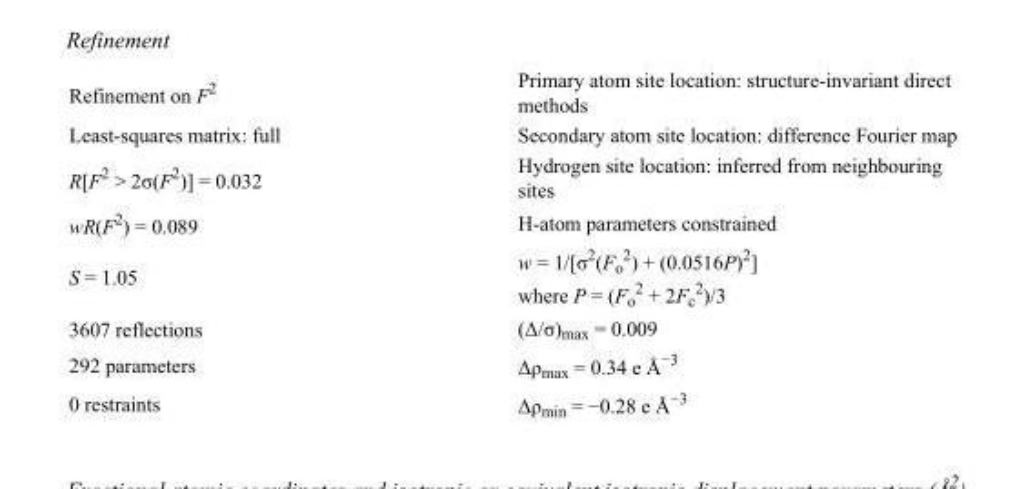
<table><tbody><tr><td>Refinement on F<sup>2</sup></td><td>Primary atom site location: structure-invariant direct methods</td></tr><tr><td>Least-squares matrix: full</td><td>Secondary atom site location: difference Fourier map</td></tr><tr><td>R[F<sup>2</sup> &gt; 2σ(F<sup>2</sup>)] = 0.032</td><td>Hydrogen site location: inferred from neighbouring sites</td></tr><tr><td>wR(F<sup>2</sup>) = 0.089</td><td>H-atom parameters constrained</td></tr><tr><td>S = 1.05</td><td>w = 1/[σ<sup>2</sup>(F<sub>o</sub> <sup>2</sup>) + (0.0516P)<sup>2</sup>] where P = (F<sub>o</sub> <sup>2</sup> + 2F<sub>c</sub> <sup>2</sup>)/3</td></tr><tr><td>3607 reflections</td><td>(Δ/σ)<sub>max</sub> = 0.009</td></tr><tr><td>292 parameters</td><td>Δρ<sub>max</sub> = 0.34 e Å<sup>−3</sup></td></tr><tr><td>0 restraints</td><td>Δρ<sub>min</sub> = −0.28 e Å<sup>−3</sup></td></tr></tbody></table>